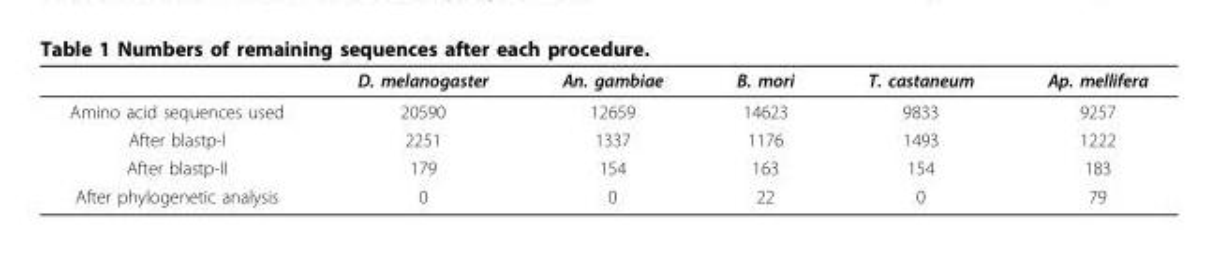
<table><thead><tr><td></td><td>D. melanogaster</td><td>An. gambiae</td><td>B. mori</td><td>T. castaneum</td><td>Ap. mellifera</td></tr></thead><tbody><tr><td>Amino acid sequences used</td><td>20590</td><td>12659</td><td>14623</td><td>9833</td><td>9257</td></tr><tr><td>After blastp-I</td><td>2251</td><td>1337</td><td>1176</td><td>1493</td><td>1222</td></tr><tr><td>After blastp-II</td><td>179</td><td>154</td><td>163</td><td>154</td><td>183</td></tr><tr><td>After phylogenetic analysis</td><td>0</td><td>0</td><td>22</td><td>0</td><td>79</td></tr></tbody></table>